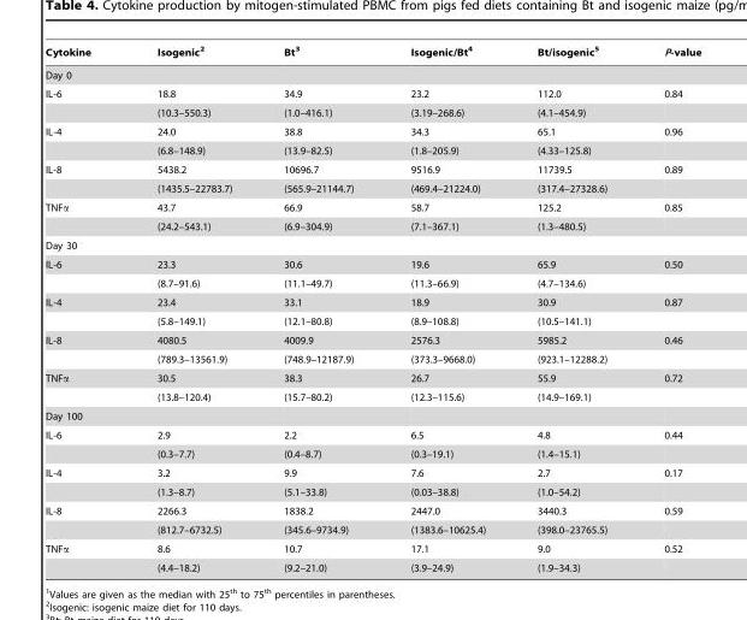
<table><thead><tr><td>Cytokine</td><td>Isogenic<sup>2</sup></td><td>Bt<sup>3</sup></td><td>Isogenic/Bt<sup>4</sup></td><td>Bt/isogenic<sup>5</sup></td><td>P-value</td></tr></thead><tbody><tr><td colspan="6">Day 0</td></tr><tr><td rowspan="2">IL-6</td><td>18.8</td><td>34.9</td><td>23.2</td><td>112.0</td><td>0.84</td></tr><tr><td>(10.3–550.3)</td><td>(1.0–416.1)</td><td>(3.19–268.6)</td><td>(4.1–454.9)</td><td></td></tr><tr><td rowspan="2">IL-4</td><td>24.0</td><td>38.8</td><td>34.3</td><td>65.1</td><td>0.96</td></tr><tr><td>(6.8–148.9)</td><td>(13.9–82.5)</td><td>(1.8–205.9)</td><td>(4.33–125.8)</td><td></td></tr><tr><td rowspan="2">IL-8</td><td>5438.2</td><td>10696.7</td><td>9516.9</td><td>11739.5</td><td>0.89</td></tr><tr><td>(1435.5–22783.7)</td><td>(565.9–21144.7)</td><td>(469.4–21224.0)</td><td>(317.4–27328.6)</td><td></td></tr><tr><td rowspan="2">TNFα</td><td>43.7</td><td>66.9</td><td>58.7</td><td>125.2</td><td>0.85</td></tr><tr><td>(24.2–543.1)</td><td>(6.9–304.9)</td><td>(7.1–367.1)</td><td>(1.3–480.5)</td><td></td></tr><tr><td colspan="6">Day 30</td></tr><tr><td rowspan="2">IL-6</td><td>23.3</td><td>30.6</td><td>19.6</td><td>65.9</td><td>0.50</td></tr><tr><td>(8.7–91.6)</td><td>(11.1–49.7)</td><td>(11.3–66.9)</td><td>(4.7–134.6)</td><td></td></tr><tr><td rowspan="2">IL-4</td><td>23.4</td><td>33.1</td><td>18.9</td><td>30.9</td><td>0.87</td></tr><tr><td>(5.8–149.1)</td><td>(12.1–80.8)</td><td>(8.9–108.8)</td><td>(10.5–141.1)</td><td></td></tr><tr><td rowspan="2">IL-8</td><td>4080.5</td><td>4009.9</td><td>2576.3</td><td>5985.2</td><td>0.46</td></tr><tr><td>(789.3–13561.9)</td><td>(748.9–12187.9)</td><td>(373.3–9668.0)</td><td>(923.1–12288.2)</td><td></td></tr><tr><td rowspan="2">TNFα</td><td>30.5</td><td>38.3</td><td>26.7</td><td>55.9</td><td>0.72</td></tr><tr><td>(13.8–120.4)</td><td>(15.7–80.2)</td><td>(12.3–115.6)</td><td>(14.9–169.1)</td><td></td></tr><tr><td colspan="6">Day 100</td></tr><tr><td rowspan="2">IL-6</td><td>2.9</td><td>2.2</td><td>6.5</td><td>4.8</td><td>0.44</td></tr><tr><td>(0.3–7.7)</td><td>(0.4–8.7)</td><td>(0.3–19.1)</td><td>(1.4–15.1)</td><td></td></tr><tr><td rowspan="2">IL-4</td><td>3.2</td><td>9.9</td><td>7.6</td><td>2.7</td><td>0.17</td></tr><tr><td>(1.3–8.7)</td><td>(5.1–33.8)</td><td>(0.03–38.8)</td><td>(1.0–54.2)</td><td></td></tr><tr><td rowspan="2">IL-8</td><td>2266.3</td><td>1838.2</td><td>2447.0</td><td>3440.3</td><td>0.59</td></tr><tr><td>(812.7–6732.5)</td><td>(345.6–9734.9)</td><td>(1383.6–10625.4)</td><td>(398.0–23765.5)</td><td></td></tr><tr><td rowspan="2">TNFα</td><td>8.6</td><td>10.7</td><td>17.1</td><td>9.0</td><td>0.52</td></tr><tr><td>(4.4–18.2)</td><td>(9.2–21.0)</td><td>(3.9–24.9)</td><td>(1.9–34.3)</td><td></td></tr></tbody></table>